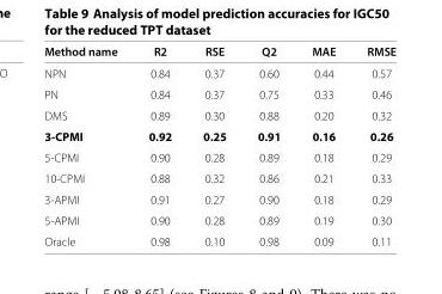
<table><thead><tr><td>Method name</td><td>R2</td><td>RSE</td><td>Q2</td><td>MAE</td><td>RMSE</td></tr></thead><tbody><tr><td>NPN</td><td>0.84</td><td>0.37</td><td>0.60</td><td>0.44</td><td>0.57</td></tr><tr><td>PN</td><td>0.84</td><td>0.37</td><td>0.75</td><td>0.33</td><td>0.46</td></tr><tr><td>DMS</td><td>0.89</td><td>0.30</td><td>0.88</td><td>0.20</td><td>0.32</td></tr><tr><td>3-CPMI</td><td>0.92</td><td>0.25</td><td>0.91</td><td>0.16</td><td>0.26</td></tr><tr><td>5-CPMI</td><td>0.90</td><td>0.28</td><td>0.89</td><td>0.18</td><td>0.29</td></tr><tr><td>10-CPMI</td><td>0.88</td><td>0.32</td><td>0.86</td><td>0.21</td><td>0.33</td></tr><tr><td>3-APMI</td><td>0.91</td><td>0.27</td><td>0.90</td><td>0.18</td><td>0.29</td></tr><tr><td>5-APMI</td><td>0.90</td><td>0.28</td><td>0.89</td><td>0.19</td><td>0.30</td></tr><tr><td>Oracle</td><td>0.98</td><td>0.10</td><td>0.98</td><td>0.09</td><td>0.11</td></tr></tbody></table>